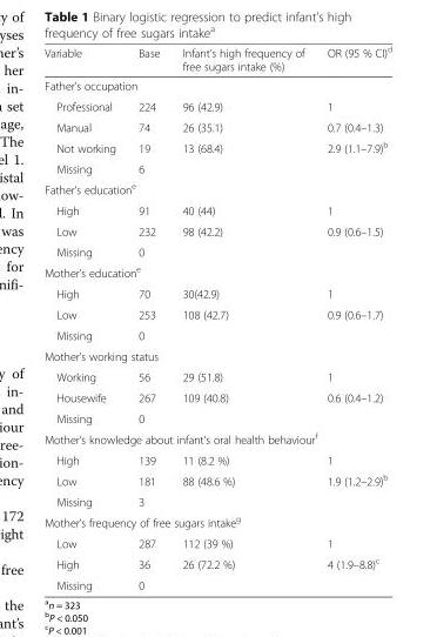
<table><thead><tr><td>Variable</td><td>Base</td><td>Infant’s high frequency of free sugars intake (%)</td><td>OR (95 % CI)<sup>d</sup></td></tr></thead><tbody><tr><td colspan="4">Father’s occupation</td></tr><tr><td>Professional</td><td>224</td><td>96 (42.9)</td><td>1</td></tr><tr><td>Manual</td><td>74</td><td>26 (35.1)</td><td>0.7 (0.4–1.3)</td></tr><tr><td>Not working</td><td>19</td><td>13 (68.4)</td><td>2.9 (1.1–7.9)<sup>b</sup></td></tr><tr><td>Missing</td><td>6</td><td></td><td></td></tr><tr><td colspan="4">Father’s education<sup>e</sup></td></tr><tr><td>High</td><td>91</td><td>40 (44)</td><td>1</td></tr><tr><td>Low</td><td>232</td><td>98 (42.2)</td><td>0.9 (0.6–1.5)</td></tr><tr><td>Missing</td><td>0</td><td></td><td></td></tr><tr><td colspan="4">Mother’s education<sup>e</sup></td></tr><tr><td>High</td><td>70</td><td>30(42.9)</td><td>1</td></tr><tr><td>Low</td><td>253</td><td>108 (42.7)</td><td>0.9 (0.6–1.7)</td></tr><tr><td>Missing</td><td>0</td><td></td><td></td></tr><tr><td colspan="4">Mother’s working status</td></tr><tr><td>Working</td><td>56</td><td>29 (51.8)</td><td>1</td></tr><tr><td>Housewife</td><td>267</td><td>109 (40.8)</td><td>0.6 (0.4–1.2)</td></tr><tr><td>Missing</td><td>0</td><td></td><td></td></tr><tr><td colspan="4">Mother’s knowledge about infant’s oral health behaviour<sup>f</sup></td></tr><tr><td>High</td><td>139</td><td>11 (8.2 %)</td><td>1</td></tr><tr><td>Low</td><td>181</td><td>88 (48.6 %)</td><td>1.9 (1.2–2.9)<sup>b</sup></td></tr><tr><td>Missing</td><td>3</td><td></td><td></td></tr><tr><td colspan="4">Mother’s frequency of free sugars intake<sup>g</sup></td></tr><tr><td>Low</td><td>287</td><td>112 (39 %)</td><td>1</td></tr><tr><td>High</td><td>36</td><td>26 (72.2 %)</td><td>4 (1.9–8.8)<sup>c</sup></td></tr><tr><td>Missing</td><td>0</td><td></td><td></td></tr></tbody></table>